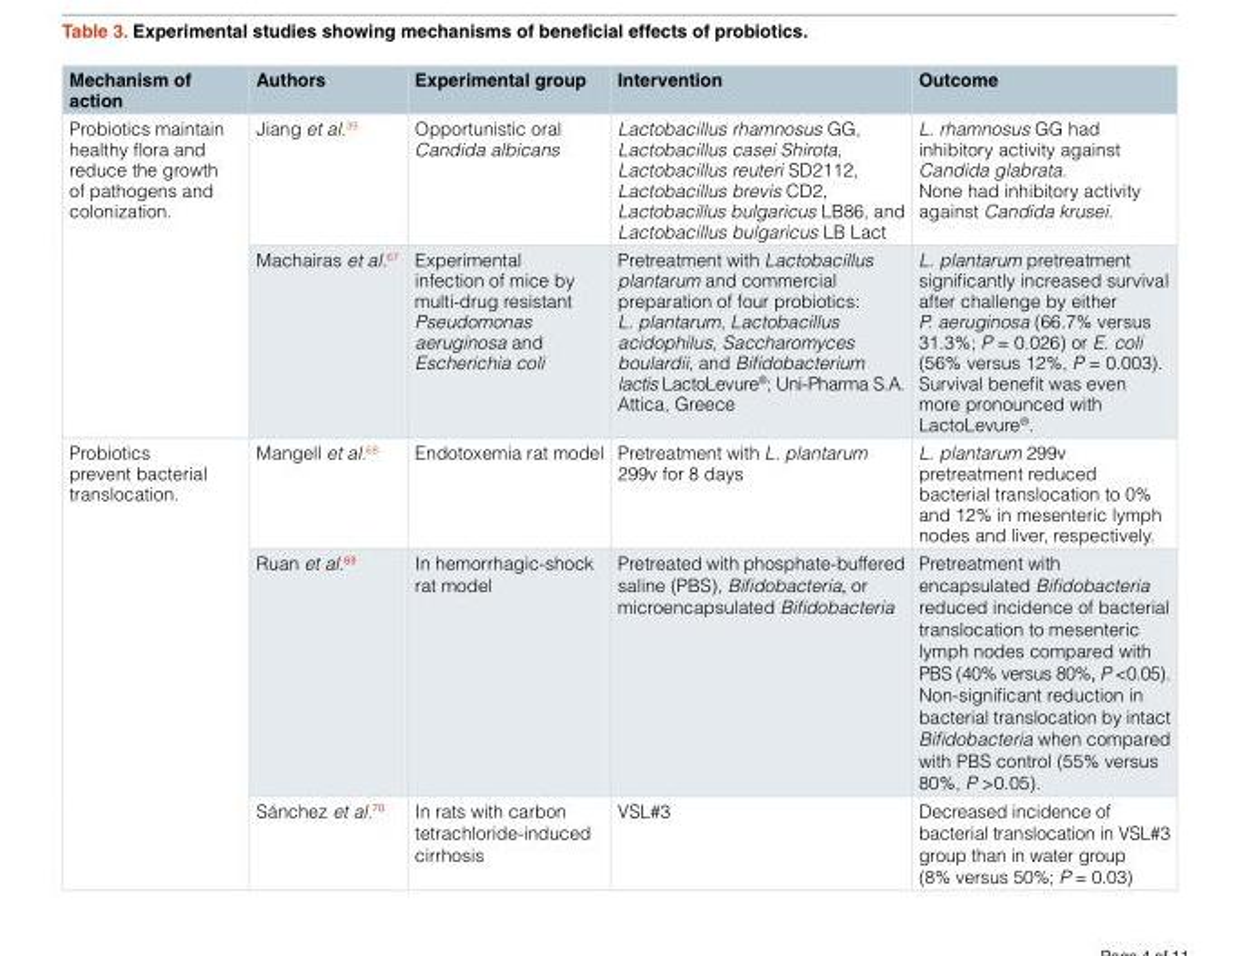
<table><thead><tr><td>Mechanism of action</td><td>Authors</td><td>Experimental group</td><td>Intervention</td><td>Outcome</td></tr></thead><tbody><tr><td rowspan="2">Probiotics maintain healthy flora and reduce the growth of pathogens and colonization.</td><td>Jiang et al.<sup>39</sup></td><td>Opportunistic oral Candida albicans</td><td>Lactobacillus rhamnosus GG, Lactobacillus casei Shirota, Lactobacillus reuteri SD2112, Lactobacillus brevis CD2, Lactobacillus bulgaricus LB86, and Lactobacillus bulgaricus LB Lact</td><td>L. rhamnosus GG had inhibitory activity against Candida glabrata. None had inhibitory activity against Candida krusei.</td></tr><tr><td>Machairas et al.<sup>67</sup></td><td>Experimental infection of mice by multi-drug resistant Pseudomonas aeruginosa and Escherichia coli</td><td>Pretreatment with Lactobacillus plantarum and commercial preparation of four probiotics: L. plantarum, Lactobacillus acidophilus, Saccharomyces boulardii, and Bifidobacterium lactis LactoLevure®; Uni-Pharma S.A. Attica, Greece</td><td>L. plantarum pretreatment significantly increased survival after challenge by either P. aeruginosa (66.7% versus 31.3%; P = 0.026) or E. coli (56% versus 12%, P = 0.003). Survival benefit was even more pronounced with LactoLevure<sup>®</sup>.</td></tr><tr><td rowspan="3">Probiotics prevent bacterial translocation.</td><td>Mangell et al.<sup>68</sup></td><td>Endotoxemia rat model</td><td>Pretreatment with L. plantarum 299v for 8 days</td><td>L. plantarum 299v pretreatment reduced bacterial translocation to 0% and 12% in mesenteric lymph nodes and liver, respectively.</td></tr><tr><td>Ruan et al.<sup>69</sup></td><td>In hemorrhagic-shock rat model</td><td>Pretreated with phosphate-buffered saline (PBS), Bifidobacteria, or microencapsulated Bifidobacteria</td><td>Pretreatment with encapsulated Bifidobacteria reduced incidence of bacterial translocation to mesenteric lymph nodes compared with PBS (40% versus 80%, P &lt;0.05). Non-significant reduction in bacterial translocation by intact Bifidobacteria when compared with PBS control (55% versus 80%, P &gt;0.05).</td></tr><tr><td>Sánchez et al.<sup>70</sup></td><td>In rats with carbon tetrachloride-induced cirrhosis</td><td>VSL#3</td><td>Decreased incidence of bacterial translocation in VSL#3 group than in water group (8% versus 50%; P = 0.03)</td></tr></tbody></table>